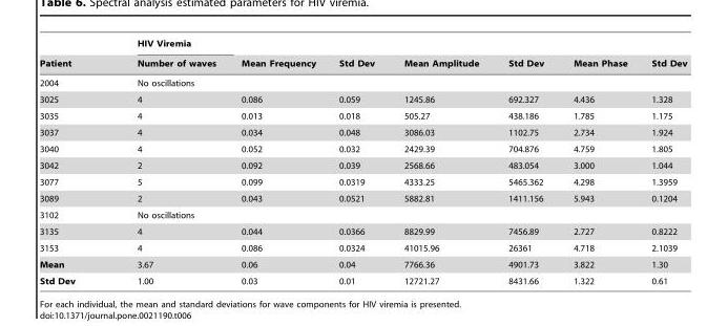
<table><thead><tr><td rowspan="2">Patient</td><td rowspan="2">HIV Viremia Number of waves</td><td rowspan="2">Mean Frequency</td><td rowspan="2">Std Dev</td><td rowspan="2">Mean Amplitude</td><td rowspan="2">Std Dev</td><td rowspan="2">Mean Phase</td><td rowspan="2">Std Dev</td></tr><tr></tr></thead><tbody><tr><td>2004</td><td>No oscillations</td><td></td><td></td><td></td><td></td><td></td><td></td></tr><tr><td>3025</td><td>4</td><td>0.086</td><td>0.059</td><td>1245.86</td><td>692.327</td><td>4.436</td><td>1.328</td></tr><tr><td>3035</td><td>4</td><td>0.013</td><td>0.018</td><td>505.27</td><td>438.186</td><td>1.785</td><td>1.175</td></tr><tr><td>3037</td><td>4</td><td>0.034</td><td>0.048</td><td>3086.03</td><td>1102.75</td><td>2.734</td><td>1.924</td></tr><tr><td>3040</td><td>4</td><td>0.052</td><td>0.032</td><td>2429.39</td><td>704.876</td><td>4.759</td><td>1.805</td></tr><tr><td>3042</td><td>2</td><td>0.092</td><td>0.039</td><td>2568.66</td><td>483.054</td><td>3.000</td><td>1.044</td></tr><tr><td>3077</td><td>5</td><td>0.099</td><td>0.0319</td><td>4333.25</td><td>5465.362</td><td>4.298</td><td>1.3959</td></tr><tr><td>3089</td><td>2</td><td>0.043</td><td>0.0521</td><td>5882.81</td><td>1411.156</td><td>5.943</td><td>0.1204</td></tr><tr><td>3102</td><td>No oscillations</td><td></td><td></td><td></td><td></td><td></td><td></td></tr><tr><td>3135</td><td>4</td><td>0.044</td><td>0.0366</td><td>8829.99</td><td>7456.89</td><td>2.727</td><td>0.8222</td></tr><tr><td>3153</td><td>4</td><td>0.086</td><td>0.0324</td><td>41015.96</td><td>26361</td><td>4.718</td><td>2.1039</td></tr><tr><td>Mean</td><td>3.67</td><td>0.06</td><td>0.04</td><td>7766.36</td><td>4901.73</td><td>3.822</td><td>1.30</td></tr><tr><td>Std Dev</td><td>1.00</td><td>0.03</td><td>0.01</td><td>12721.27</td><td>8431.66</td><td>1.322</td><td>0.61</td></tr></tbody></table>